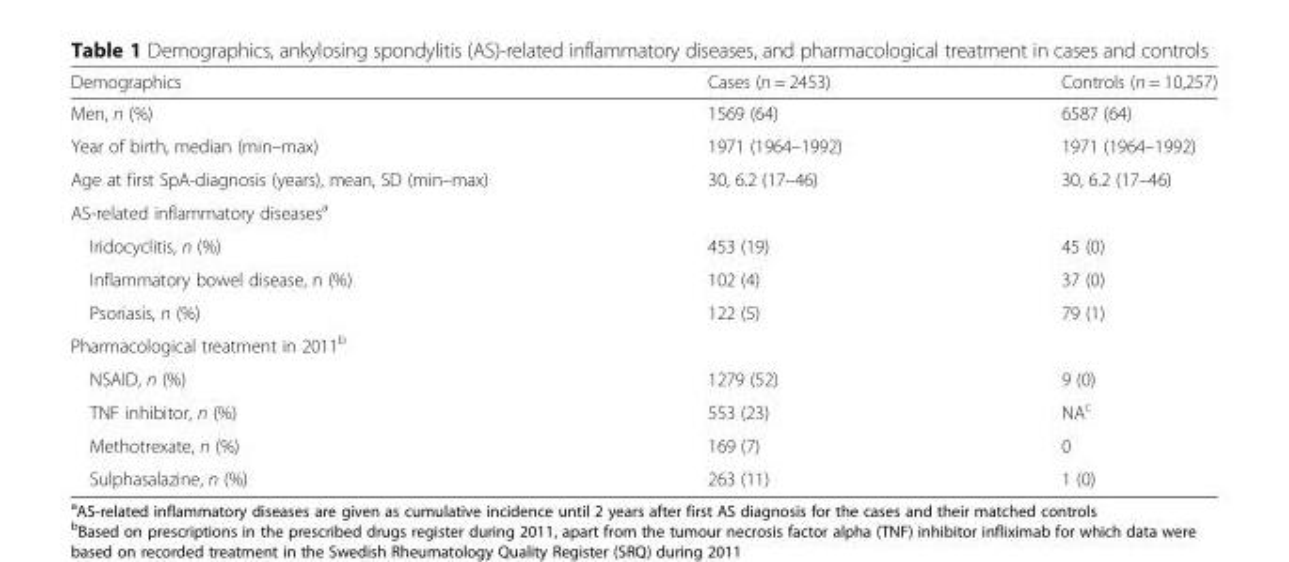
<table><thead><tr><td>Demographics</td><td>Cases (n = 2453)</td><td>Controls (n = 10,257)</td></tr></thead><tbody><tr><td>Men, n (%)</td><td>1569 (64)</td><td>6587 (64)</td></tr><tr><td>Year of birth, median (min–max)</td><td>1971 (1964–1992)</td><td>1971 (1964–1992)</td></tr><tr><td>Age at first SpA-diagnosis (years), mean, SD (min–max)</td><td>30, 6.2 (17–46)</td><td>30, 6.2 (17–46)</td></tr><tr><td colspan="3">AS-related inflammatory diseases<sup>a</sup></td></tr><tr><td>Iridocyclitis, n (%)</td><td>453 (19)</td><td>45 (0)</td></tr><tr><td>Inflammatory bowel disease, n (%)</td><td>102 (4)</td><td>37 (0)</td></tr><tr><td>Psoriasis, n (%)</td><td>122 (5)</td><td>79 (1)</td></tr><tr><td colspan="3">Pharmacological treatment in 2011<sup>b</sup></td></tr><tr><td>NSAID, n (%)</td><td>1279 (52)</td><td>9 (0)</td></tr><tr><td>TNF inhibitor, n (%)</td><td>553 (23)</td><td>NA<sup>c</sup></td></tr><tr><td>Methotrexate, n (%)</td><td>169 (7)</td><td>0</td></tr><tr><td>Sulphasalazine, n (%)</td><td>263 (11)</td><td>1 (0)</td></tr></tbody></table>